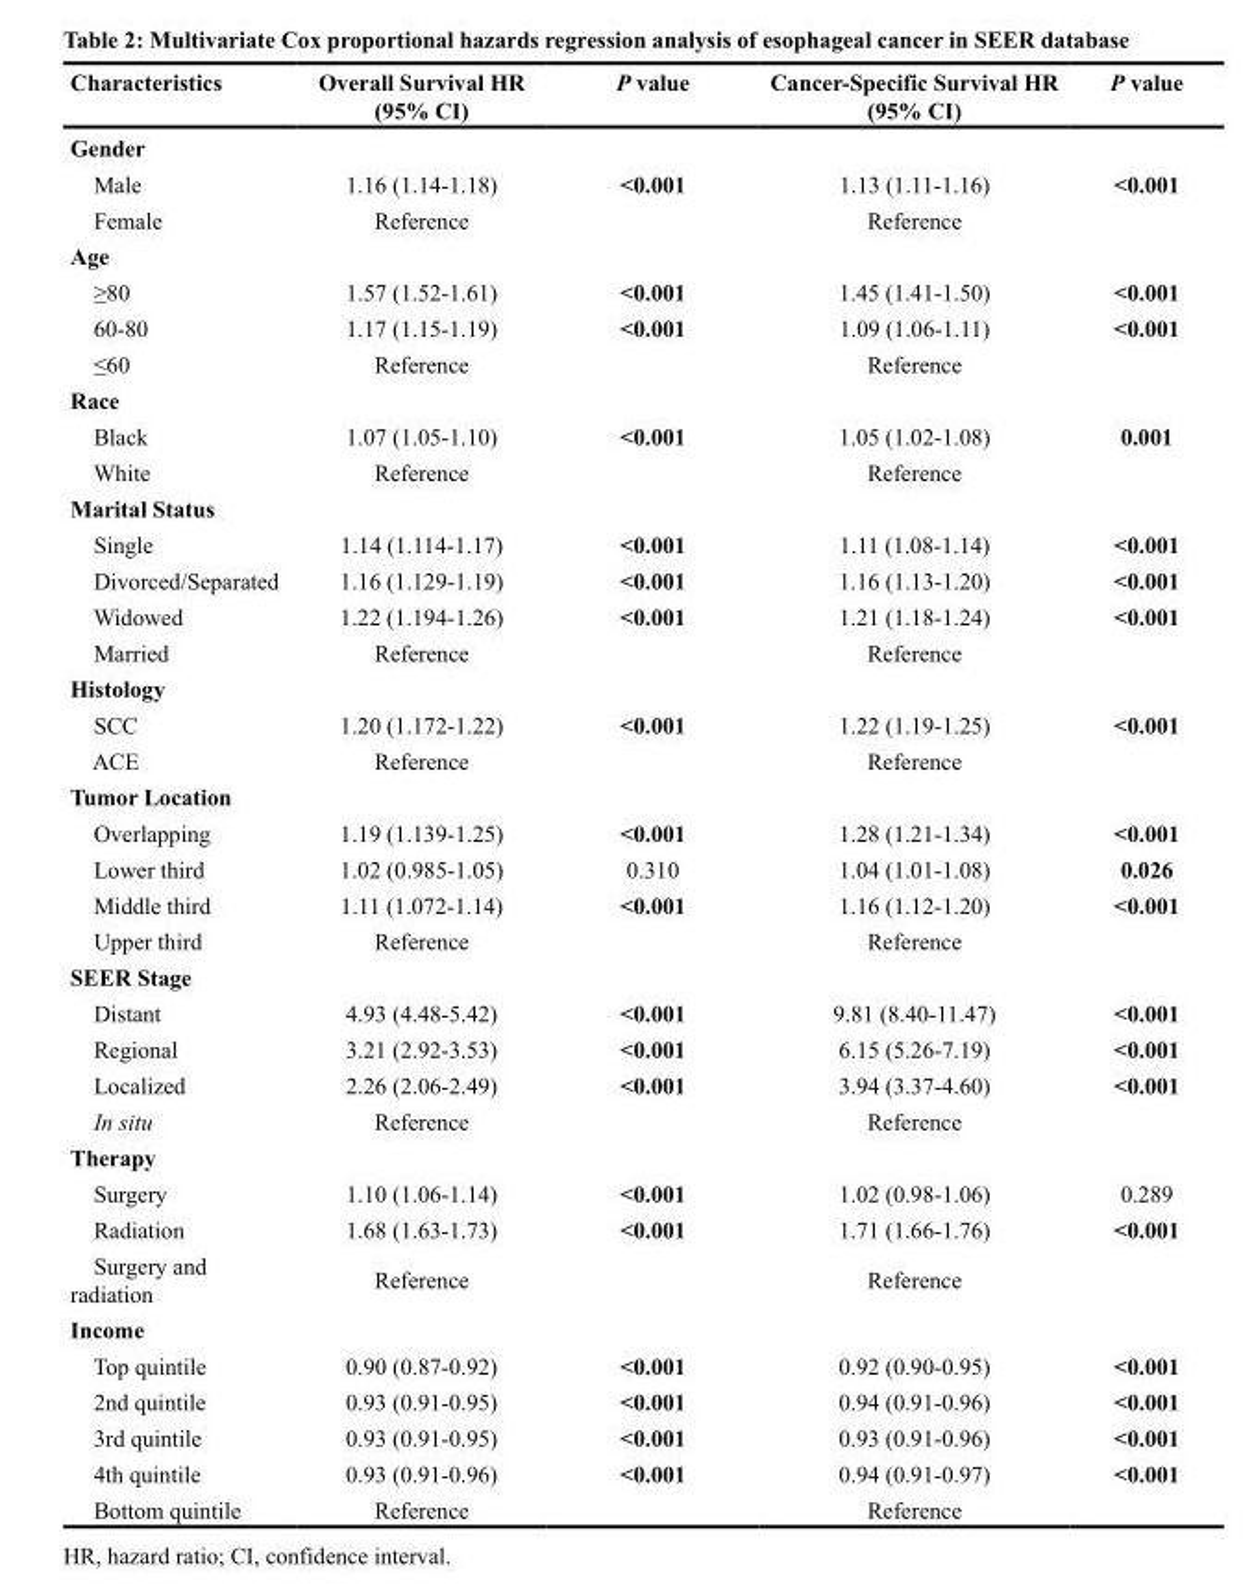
<table><thead><tr><td>Characteristics</td><td>Overall Survival HR (95% CI)</td><td>P value</td><td>Cancer-Specific Survival HR (95% CI)</td><td>P value</td></tr></thead><tbody><tr><td colspan="5">Gender</td></tr><tr><td>Male</td><td>1.16 (1.14-1.18)</td><td>&lt;0.001</td><td>1.13 (1.11-1.16)</td><td>&lt;0.001</td></tr><tr><td>Female</td><td>Reference</td><td></td><td>Reference</td><td></td></tr><tr><td colspan="5">Age</td></tr><tr><td>≥80</td><td>1.57 (1.52-1.61)</td><td>&lt;0.001</td><td>1.45 (1.41-1.50)</td><td>&lt;0.001</td></tr><tr><td>60-80</td><td>1.17 (1.15-1.19)</td><td>&lt;0.001</td><td>1.09 (1.06-1.11)</td><td>&lt;0.001</td></tr><tr><td>≤60</td><td>Reference</td><td></td><td>Reference</td><td></td></tr><tr><td colspan="5">Race</td></tr><tr><td>Black</td><td>1.07 (1.05-1.10)</td><td>&lt;0.001</td><td>1.05 (1.02-1.08)</td><td>0.001</td></tr><tr><td>White</td><td>Reference</td><td></td><td>Reference</td><td></td></tr><tr><td colspan="5">Marital Status</td></tr><tr><td>Single</td><td>1.14 (1.114-1.17)</td><td>&lt;0.001</td><td>1.11 (1.08-1.14)</td><td>&lt;0.001</td></tr><tr><td>Divorced/Separated</td><td>1.16 (1.129-1.19)</td><td>&lt;0.001</td><td>1.16 (1.13-1.20)</td><td>&lt;0.001</td></tr><tr><td>Widowed</td><td>1.22 (1.194-1.26)</td><td>&lt;0.001</td><td>1.21 (1.18-1.24)</td><td>&lt;0.001</td></tr><tr><td>Married</td><td>Reference</td><td></td><td>Reference</td><td></td></tr><tr><td colspan="5">Histology</td></tr><tr><td>SCC</td><td>1.20 (1.172-1.22)</td><td>&lt;0.001</td><td>1.22 (1.19-1.25)</td><td>&lt;0.001</td></tr><tr><td>ACE</td><td>Reference</td><td></td><td>Reference</td><td></td></tr><tr><td colspan="5">Tumor Location</td></tr><tr><td>Overlapping</td><td>1.19 (1.139-1.25)</td><td>&lt;0.001</td><td>1.28 (1.21-1.34)</td><td>&lt;0.001</td></tr><tr><td>Lower third</td><td>1.02 (0.985-1.05)</td><td>0.310</td><td>1.04 (1.01-1.08)</td><td>0.026</td></tr><tr><td>Middle third</td><td>1.11 (1.072-1.14)</td><td>&lt;0.001</td><td>1.16 (1.12-1.20)</td><td>&lt;0.001</td></tr><tr><td>Upper third</td><td>Reference</td><td></td><td>Reference</td><td></td></tr><tr><td colspan="5">SEER Stage</td></tr><tr><td>Distant</td><td>4.93 (4.48-5.42)</td><td>&lt;0.001</td><td>9.81 (8.40-11.47)</td><td>&lt;0.001</td></tr><tr><td>Regional</td><td>3.21 (2.92-3.53)</td><td>&lt;0.001</td><td>6.15 (5.26-7.19)</td><td>&lt;0.001</td></tr><tr><td>Localized</td><td>2.26 (2.06-2.49)</td><td>&lt;0.001</td><td>3.94 (3.37-4.60)</td><td>&lt;0.001</td></tr><tr><td>In situ</td><td>Reference</td><td></td><td>Reference</td><td></td></tr><tr><td colspan="5">Therapy</td></tr><tr><td>Surgery</td><td>1.10 (1.06-1.14)</td><td>&lt;0.001</td><td>1.02 (0.98-1.06)</td><td>0.289</td></tr><tr><td>Radiation</td><td>1.68 (1.63-1.73)</td><td>&lt;0.001</td><td>1.71 (1.66-1.76)</td><td>&lt;0.001</td></tr><tr><td>Surgery and radiation</td><td>Reference</td><td></td><td>Reference</td><td></td></tr><tr><td colspan="5">Income</td></tr><tr><td>Top quintile</td><td>0.90 (0.87-0.92)</td><td>&lt;0.001</td><td>0.92 (0.90-0.95)</td><td>&lt;0.001</td></tr><tr><td>2nd quintile</td><td>0.93 (0.91-0.95)</td><td>&lt;0.001</td><td>0.94 (0.91-0.96)</td><td>&lt;0.001</td></tr><tr><td>3rd quintile</td><td>0.93 (0.91-0.95)</td><td>&lt;0.001</td><td>0.93 (0.91-0.96)</td><td>&lt;0.001</td></tr><tr><td>4th quintile</td><td>0.93 (0.91-0.96)</td><td>&lt;0.001</td><td>0.94 (0.91-0.97)</td><td>&lt;0.001</td></tr><tr><td>Bottom quintile</td><td>Reference</td><td></td><td>Reference</td><td></td></tr></tbody></table>